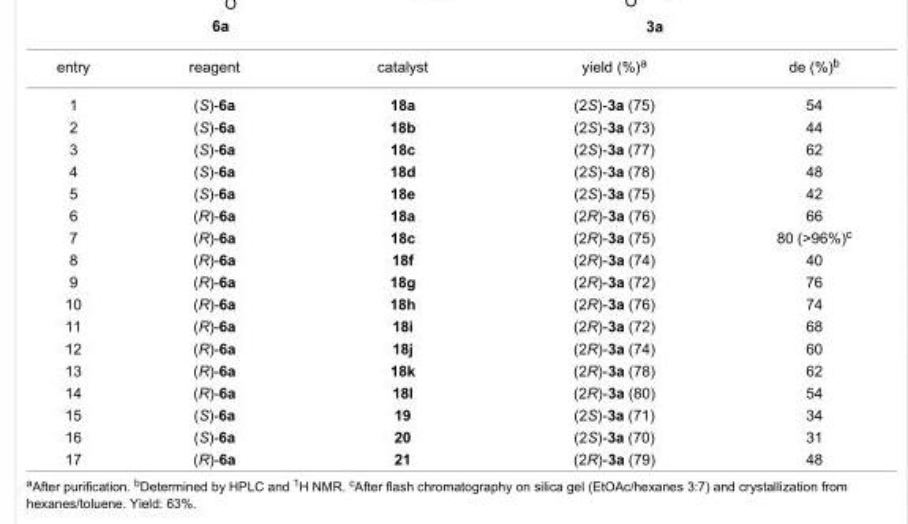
<table><tbody><tr><td>entry</td><td>reagent</td><td>catalyst</td><td>yield (%)<sup>a</sup></td><td>de (%)<sup>b</sup></td></tr><tr><td>1</td><td>(S)-6a</td><td>18a</td><td>(2S)-3a (75)</td><td>54</td></tr><tr><td>2</td><td>(S)-6a</td><td>18b</td><td>(2S)-3a (73)</td><td>44</td></tr><tr><td>3</td><td>(S)-6a</td><td>18c</td><td>(2S)-3a (77)</td><td>62</td></tr><tr><td>4</td><td>(S)-6a</td><td>18d</td><td>(2S)-3a (78)</td><td>48</td></tr><tr><td>5</td><td>(S)-6a</td><td>18e</td><td>(2S)-3a (75)</td><td>42</td></tr><tr><td>6</td><td>(R)-6a</td><td>18a</td><td>(2R)-3a (76)</td><td>66</td></tr><tr><td>7</td><td>(R)-6a</td><td>18c</td><td>(2R)-3a (75)</td><td>80 (&gt;96%)<sup>c</sup></td></tr><tr><td>8</td><td>(R)-6a</td><td>18f</td><td>(2R)-3a (74)</td><td>40</td></tr><tr><td>9</td><td>(R)-6a</td><td>18g</td><td>(2R)-3a (72)</td><td>76</td></tr><tr><td>10</td><td>(R)-6a</td><td>18h</td><td>(2R)-3a (76)</td><td>74</td></tr><tr><td>11</td><td>(R)-6a</td><td>18i</td><td>(2R)-3a (72)</td><td>68</td></tr><tr><td>12</td><td>(R)-6a</td><td>18j</td><td>(2R)-3a (74)</td><td>60</td></tr><tr><td>13</td><td>(R)-6a</td><td>18k</td><td>(2R)-3a (78)</td><td>62</td></tr><tr><td>14</td><td>(R)-6a</td><td>18l</td><td>(2R)-3a (80)</td><td>54</td></tr><tr><td>15</td><td>(S)-6a</td><td>19</td><td>(2S)-3a (71)</td><td>34</td></tr><tr><td>16</td><td>(S)-6a</td><td>20</td><td>(2S)-3a (70)</td><td>31</td></tr><tr><td>17</td><td>(R)-6a</td><td>21</td><td>(2R)-3a (79)</td><td>48</td></tr></tbody></table>